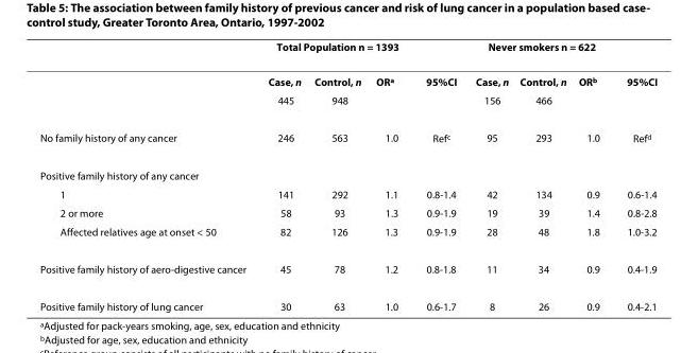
<table><thead><tr><td rowspan="2"></td><td colspan="3">Total Population n = 1393</td><td rowspan="2">95%CI</td><td colspan="3">Never smokers n = 622</td><td rowspan="2">95%CI</td></tr><tr><td>Case, n</td><td>Control, n</td><td>OR<sup>a</sup></td><td>Case, n</td><td>Control, n</td><td>OR<sup>b</sup></td></tr></thead><tbody><tr><td></td><td>445</td><td>948</td><td></td><td></td><td>156</td><td>466</td><td></td><td></td></tr><tr><td>No family history of any cancer</td><td>246</td><td>563</td><td>1.0</td><td>Ref<sup>c</sup></td><td>95</td><td>293</td><td>1.0</td><td>Ref<sup>d</sup></td></tr><tr><td colspan="9">Positive family history of any cancer</td></tr><tr><td>1</td><td>141</td><td>292</td><td>1.1</td><td>0.8-1.4</td><td>42</td><td>134</td><td>0.9</td><td>0.6-1.4</td></tr><tr><td>2 or more</td><td>58</td><td>93</td><td>1.3</td><td>0.9-1.9</td><td>19</td><td>39</td><td>1.4</td><td>0.8-2.8</td></tr><tr><td>Affected relatives age at onset &lt; 50</td><td>82</td><td>126</td><td>1.3</td><td>0.9-1.9</td><td>28</td><td>48</td><td>1.8</td><td>1.0-3.2</td></tr><tr><td>Positive family history of aero-digestive cancer</td><td>45</td><td>78</td><td>1.2</td><td>0.8-1.8</td><td>11</td><td>34</td><td>0.9</td><td>0.4-1.9</td></tr><tr><td>Positive family history of lung cancer</td><td>30</td><td>63</td><td>1.0</td><td>0.6-1.7</td><td>8</td><td>26</td><td>0.9</td><td>0.4-2.1</td></tr></tbody></table>